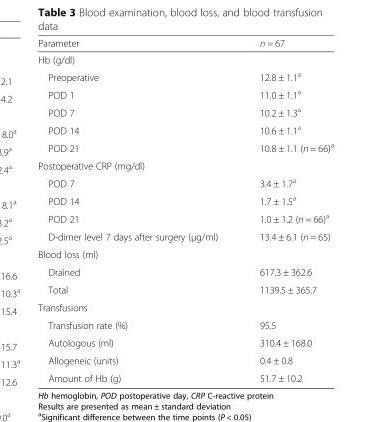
<table><thead><tr><td>Parameter</td><td>n = 67</td></tr></thead><tbody><tr><td colspan="2">Hb (g/dl)</td></tr><tr><td>Preoperative</td><td>12.8 ± 1.1<sup>a</sup></td></tr><tr><td>POD 1</td><td>11.0 ± 1.1<sup>a</sup></td></tr><tr><td>POD 7</td><td>10.2 ± 1.3<sup>a</sup></td></tr><tr><td>POD 14</td><td>10.6 ± 1.1<sup>a</sup></td></tr><tr><td>POD 21</td><td>10.8 ± 1.1 (n = 66)<sup>a</sup></td></tr><tr><td colspan="2">Postoperative CRP (mg/dl)</td></tr><tr><td>POD 7</td><td>3.4 ± 1.7<sup>a</sup></td></tr><tr><td>POD 14</td><td>1.7 ± 1.5<sup>a</sup></td></tr><tr><td>POD 21</td><td>1.0 ± 1.2 (n = 66)<sup>a</sup></td></tr><tr><td>D-dimer level 7 days after surgery (μg/ml)</td><td>13.4 ± 6.1 (n = 65)</td></tr><tr><td colspan="2">Blood loss (ml)</td></tr><tr><td>Drained</td><td>617.3 ± 362.6</td></tr><tr><td>Total</td><td>1139.5 ± 365.7</td></tr><tr><td colspan="2">Transfusions</td></tr><tr><td>Transfusion rate (%)</td><td>95.5</td></tr><tr><td>Autologous (ml)</td><td>310.4 ± 168.0</td></tr><tr><td>Allogeneic (units)</td><td>0.4 ± 0.8</td></tr><tr><td>Amount of Hb (g)</td><td>51.7 ± 10.2</td></tr></tbody></table>